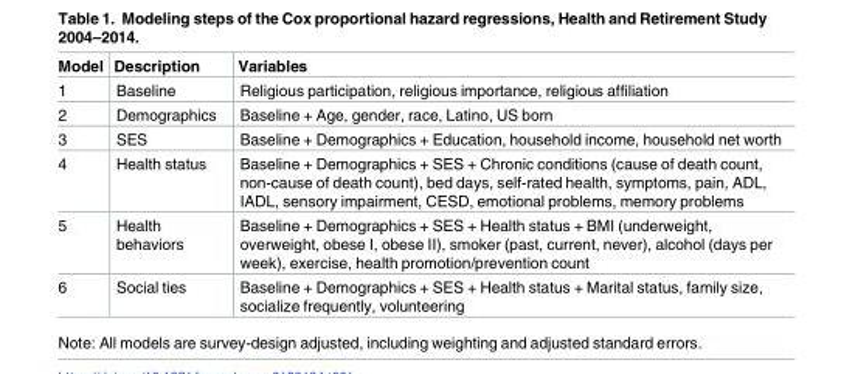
<table><thead><tr><td>Model</td><td>Description</td><td>Variables</td></tr></thead><tbody><tr><td>1</td><td>Baseline</td><td>Religious participation, religious importance, religious affiliation</td></tr><tr><td>2</td><td>Demographics</td><td>Baseline + Age, gender, race, Latino, US born</td></tr><tr><td>3</td><td>SES</td><td>Baseline + Demographics + Education, household income, household net worth</td></tr><tr><td>4</td><td>Health status</td><td>Baseline + Demographics + SES + Chronic conditions (cause of death count, non-cause of death count), bed days, self-rated health, symptoms, pain, ADL, IADL, sensory impairment, CESD, emotional problems, memory problems</td></tr><tr><td>5</td><td>Health behaviors</td><td>Baseline + Demographics + SES + Health status + BMI (underweight, overweight, obese I, obese II), smoker (past, current, never), alcohol (days per week), exercise, health promotion/prevention count</td></tr><tr><td>6</td><td>Social ties</td><td>Baseline + Demographics + SES + Health status + Marital status, family size, socialize frequently, volunteering</td></tr></tbody></table>